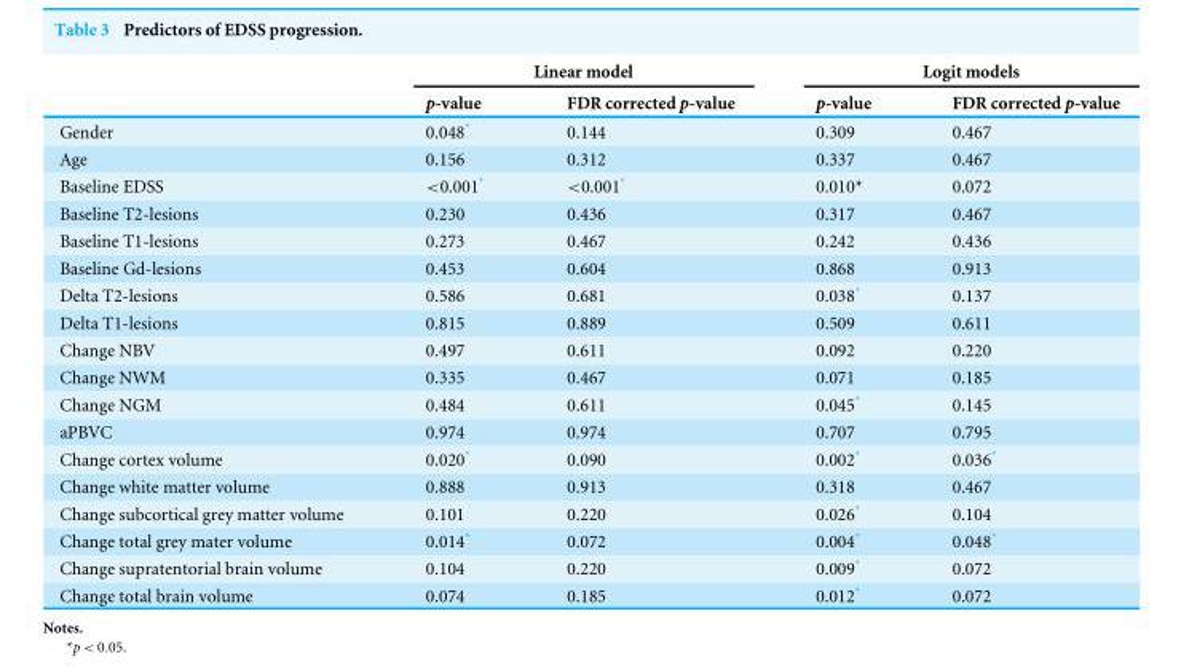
<table><thead><tr><td rowspan="2"></td><td colspan="2">Linear model</td><td colspan="2">Logit models</td></tr><tr><td>p-value</td><td>FDR corrected p-value</td><td>p-value</td><td>FDR corrected p-value</td></tr></thead><tbody><tr><td>Gender</td><td>0.048*</td><td>0.144</td><td>0.309</td><td>0.467</td></tr><tr><td>Age</td><td>0.156</td><td>0.312</td><td>0.337</td><td>0.467</td></tr><tr><td>Baseline EDSS</td><td>&lt;0.001*</td><td>&lt;0.001*</td><td>0.010*</td><td>0.072</td></tr><tr><td>Baseline T2-lesions</td><td>0.230</td><td>0.436</td><td>0.317</td><td>0.467</td></tr><tr><td>Baseline T1-lesions</td><td>0.273</td><td>0.467</td><td>0.242</td><td>0.436</td></tr><tr><td>Baseline Gd-lesions</td><td>0.453</td><td>0.604</td><td>0.868</td><td>0.913</td></tr><tr><td>Delta T2-lesions</td><td>0.586</td><td>0.681</td><td>0.038*</td><td>0.137</td></tr><tr><td>Delta T1-lesions</td><td>0.815</td><td>0.889</td><td>0.509</td><td>0.611</td></tr><tr><td>Change NBV</td><td>0.497</td><td>0.611</td><td>0.092</td><td>0.220</td></tr><tr><td>Change NWM</td><td>0.335</td><td>0.467</td><td>0.071</td><td>0.185</td></tr><tr><td>Change NGM</td><td>0.484</td><td>0.611</td><td>0.045*</td><td>0.145</td></tr><tr><td>aPBVC</td><td>0.974</td><td>0.974</td><td>0.707</td><td>0.795</td></tr><tr><td>Change cortex volume</td><td>0.020*</td><td>0.090</td><td>0.002*</td><td>0.036*</td></tr><tr><td>Change white matter volume</td><td>0.888</td><td>0.913</td><td>0.318</td><td>0.467</td></tr><tr><td>Change subcortical grey matter volume</td><td>0.101</td><td>0.220</td><td>0.026*</td><td>0.104</td></tr><tr><td>Change total grey mater volume</td><td>0.014*</td><td>0.072</td><td>0.004*</td><td>0.048*</td></tr><tr><td>Change supratentorial brain volume</td><td>0.104</td><td>0.220</td><td>0.009*</td><td>0.072</td></tr><tr><td>Change total brain volume</td><td>0.074</td><td>0.185</td><td>0.012*</td><td>0.072</td></tr></tbody></table>